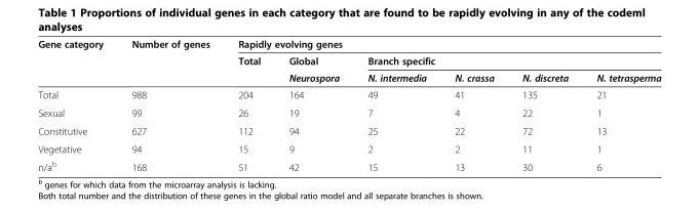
<table><thead><tr><td rowspan="3">Gene category</td><td rowspan="3">Number of genes</td><td colspan="6">Rapidly evolving genes</td></tr><tr><td rowspan="2">Total</td><td rowspan="2">Global Neurospora</td><td colspan="4">Branch specific</td></tr><tr><td>N. intermedia</td><td>N. crassa</td><td>N. discreta</td><td>N. tetrasperma</td></tr></thead><tbody><tr><td>Total</td><td>988</td><td>204</td><td>164</td><td>49</td><td>41</td><td>135</td><td>21</td></tr><tr><td>Sexual</td><td>99</td><td>26</td><td>19</td><td>7</td><td>4</td><td>22</td><td>1</td></tr><tr><td>Constitutive</td><td>627</td><td>112</td><td>94</td><td>25</td><td>22</td><td>72</td><td>13</td></tr><tr><td>Vegetative</td><td>94</td><td>15</td><td>9</td><td>2</td><td>2</td><td>11</td><td>1</td></tr><tr><td>n/a<sup>b</sup></td><td>168</td><td>51</td><td>42</td><td>15</td><td>13</td><td>30</td><td>6</td></tr></tbody></table>